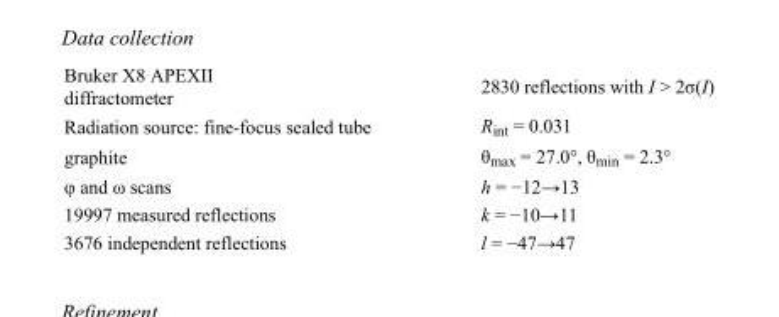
<table><tbody><tr><td>Bruker X8 APEXII diffractometer</td><td>2830 reflections with I &gt; 2σ(I)</td></tr><tr><td>Radiation source: fine-focus sealed tube</td><td>R<sub>int</sub> = 0.031</td></tr><tr><td>graphite</td><td>θ<sub>max</sub> = 27.0°, θ<sub>min</sub> = 2.3°</td></tr><tr><td>φ and ω scans</td><td>h = −12→13</td></tr><tr><td>19997 measured reflections</td><td>k = −10→11</td></tr><tr><td>3676 independent reflections</td><td>l = −47→47</td></tr></tbody></table>